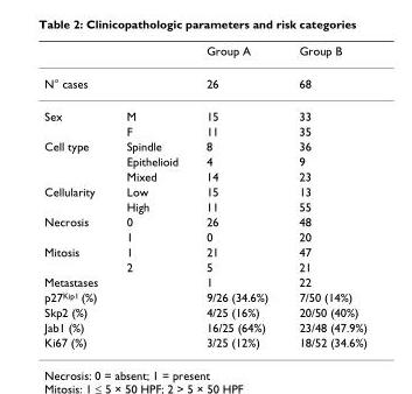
<table><thead><tr><td></td><td></td><td>Group A</td><td>Group B</td></tr></thead><tbody><tr><td>N° cases</td><td></td><td>26</td><td>68</td></tr><tr><td rowspan="2">Sex</td><td>M</td><td>15</td><td>33</td></tr><tr><td>F</td><td>11</td><td>35</td></tr><tr><td rowspan="3">Cell type</td><td>Spindle</td><td>8</td><td>36</td></tr><tr><td>Epithelioid</td><td>4</td><td>9</td></tr><tr><td>Mixed</td><td>14</td><td>23</td></tr><tr><td rowspan="2">Cellularity</td><td>Low</td><td>15</td><td>13</td></tr><tr><td>High</td><td>11</td><td>55</td></tr><tr><td rowspan="2">Necrosis</td><td>0</td><td>26</td><td>48</td></tr><tr><td>1</td><td>0</td><td>20</td></tr><tr><td rowspan="2">Mitosis</td><td>1</td><td>21</td><td>47</td></tr><tr><td>2</td><td>5</td><td>21</td></tr><tr><td>Metastases</td><td></td><td>1</td><td>22</td></tr><tr><td>p27<sup>Kip1</sup> (%)</td><td></td><td>9/26 (34.6%)</td><td>7/50 (14%)</td></tr><tr><td>Skp2 (%)</td><td></td><td>4/25 (16%)</td><td>20/50 (40%)</td></tr><tr><td>Jab1 (%)</td><td></td><td>16/25 (64%)</td><td>23/48 (47.9%)</td></tr><tr><td>Ki67 (%)</td><td></td><td>3/25 (12%)</td><td>18/52 (34.6%)</td></tr></tbody></table>